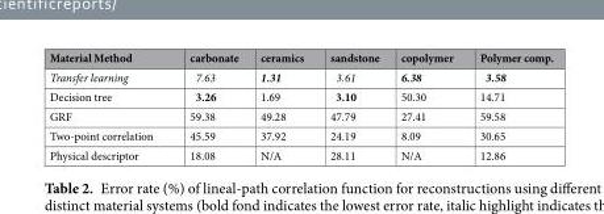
<table><thead><tr><td>Material Method</td><td>carbonate</td><td>ceramics</td><td>sandstone</td><td>copolymer</td><td>Polymer comp.</td></tr></thead><tbody><tr><td>Transfer learning</td><td>7.63</td><td>1.31</td><td>3.61</td><td>6.38</td><td>3.58</td></tr><tr><td>Decision tree</td><td>3.26</td><td>1.69</td><td>3.10</td><td>50.30</td><td>14.71</td></tr><tr><td>GRF</td><td>59.38</td><td>49.28</td><td>47.79</td><td>27.41</td><td>59.58</td></tr><tr><td>Two-point correlation</td><td>45.59</td><td>37.92</td><td>24.19</td><td>8.09</td><td>30.65</td></tr><tr><td>Physical descriptor</td><td>18.08</td><td>N/A</td><td>28.11</td><td>N/A</td><td>12.86</td></tr></tbody></table>